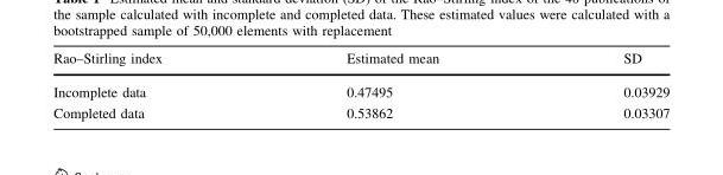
<table><thead><tr><td>Rao–Stirling index</td><td>Estimated mean</td><td>SD</td></tr></thead><tbody><tr><td>Incomplete data</td><td>0.47495</td><td>0.03929</td></tr><tr><td>Completed data</td><td>0.53862</td><td>0.03307</td></tr></tbody></table>